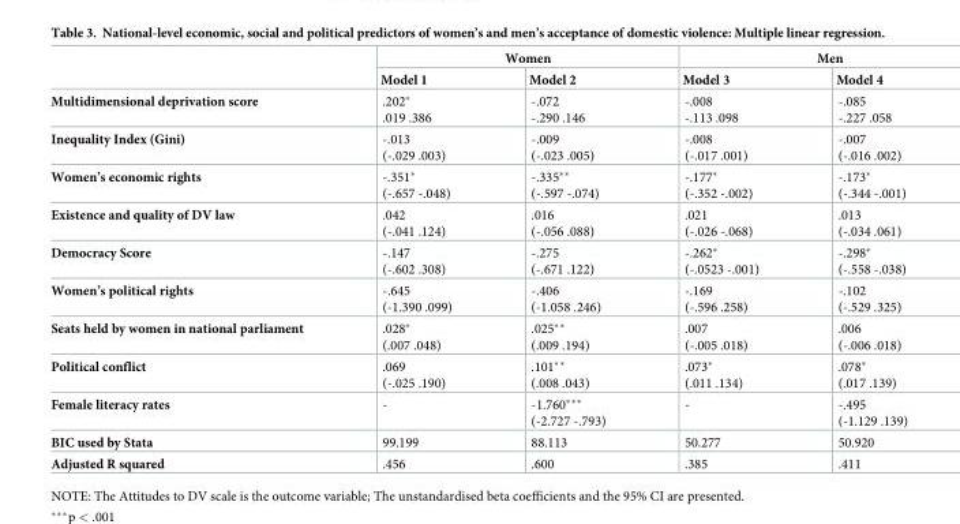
<table><thead><tr><td rowspan="2"></td><td colspan="2">Women</td><td colspan="2">Men</td></tr><tr><td>Model 1</td><td>Model 2</td><td>Model 3</td><td>Model 4</td></tr></thead><tbody><tr><td>Multidimensional deprivation score</td><td>.202* .019 .386</td><td>-.072 -.290 .146</td><td>-.008 -.113 .098</td><td>-.085 -.227 .058</td></tr><tr><td>Inequality Index (Gini)</td><td>-.013 (-.029 .003)</td><td>-.009 (-.023 .005)</td><td>-.008 (-.017 .001)</td><td>-.007 (-.016 .002)</td></tr><tr><td>Women’s economic rights</td><td>-.351* (-.657 -.048)</td><td>-.335** (-.597 -.074)</td><td>-.177* (-.352 -.002)</td><td>-.173* (-.344 -.001)</td></tr><tr><td>Existence and quality of DV law</td><td>.042 (-.041 .124)</td><td>.016 (-.056 .088)</td><td>.021 (-.026 -.068)</td><td>.013 (-.034 .061)</td></tr><tr><td>Democracy Score</td><td>-.147 (-.602 .308)</td><td>-.275 (-.671 .122)</td><td>-.262* (-.0523 -.001)</td><td>-.298* (-.558 -.038)</td></tr><tr><td>Women’s political rights</td><td>-.645 (-1.390 .099)</td><td>-.406 (-1.058 .246)</td><td>-.169 (-.596 .258)</td><td>-.102 (-.529 .325)</td></tr><tr><td>Seats held by women in national parliament</td><td>.028* (.007 .048)</td><td>.025** (.009 .194)</td><td>.007 (-.005 .018)</td><td>.006 (-.006 .018)</td></tr><tr><td>Political conflict</td><td>.069 (-.025 .190)</td><td>.101** (.008 .043)</td><td>.073* (.011 .134)</td><td>.078* (.017 .139)</td></tr><tr><td>Female literacy rates</td><td>-</td><td>-1.760*** (-2.727 -.793)</td><td>-</td><td>-.495 (-1.129 .139)</td></tr><tr><td>BIC used by Stata</td><td>99.199</td><td>88.113</td><td>50.277</td><td>50.920</td></tr><tr><td>Adjusted R squared</td><td>.456</td><td>.600</td><td>.385</td><td>.411</td></tr></tbody></table>